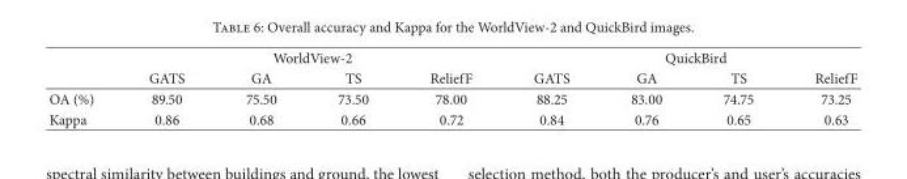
<table><thead><tr><td rowspan="2"></td><td colspan="4">WorldView-2</td><td colspan="4">QuickBird</td></tr><tr><td>GATS</td><td>GA</td><td>TS</td><td>ReliefF</td><td>GATS</td><td>GA</td><td>TS</td><td>ReliefF</td></tr></thead><tbody><tr><td>OA (%)</td><td>89.50</td><td>75.50</td><td>73.50</td><td>78.00</td><td>88.25</td><td>83.00</td><td>74.75</td><td>73.25</td></tr><tr><td>Kappa</td><td>0.86</td><td>0.68</td><td>0.66</td><td>0.72</td><td>0.84</td><td>0.76</td><td>0.65</td><td>0.63</td></tr></tbody></table>